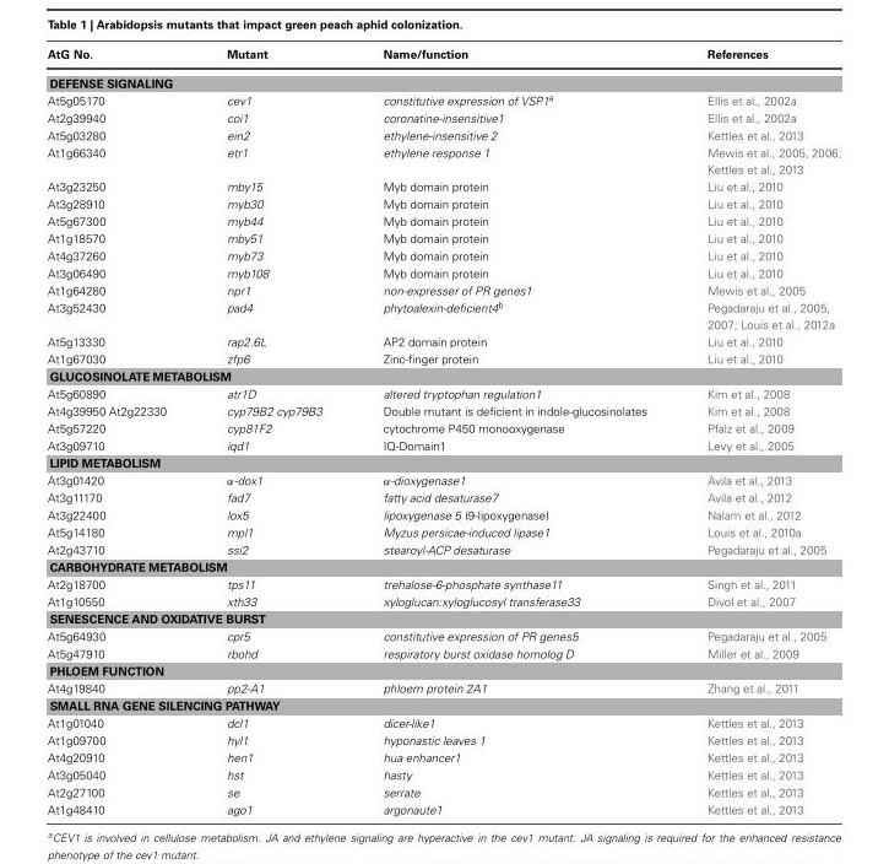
<table><thead><tr><td>AtG No.</td><td>Mutant</td><td>Name/function</td><td>References</td></tr></thead><tbody><tr><td colspan="4">DEFENSE SIGNALING</td></tr><tr><td>At5g05170</td><td>cev1</td><td>constitutive expression of VSP1<sup>a</sup></td><td>Ellis et al., 2002a</td></tr><tr><td>At2g39940</td><td>coi1</td><td>coronatine-insensitive1</td><td>Ellis et al., 2002a</td></tr><tr><td>At5g03280</td><td>ein2</td><td>ethylene-insensitive 2</td><td>Kettles et al., 2013</td></tr><tr><td>At1g66340</td><td>etr1</td><td>ethylene response 1</td><td>Mewis et al., 2005, 2006; Kettles et al., 2013</td></tr><tr><td>At3g23250</td><td>mby15</td><td>Myb domain protein</td><td>Liu et al., 2010</td></tr><tr><td>At3g28910</td><td>myb30</td><td>Myb domain protein</td><td>Liu et al., 2010</td></tr><tr><td>At5g67300</td><td>myb44</td><td>Myb domain protein</td><td>Liu et al., 2010</td></tr><tr><td>At1g18570</td><td>mby51</td><td>Myb domain protein</td><td>Liu et al., 2010</td></tr><tr><td>At4g37260</td><td>myb73</td><td>Myb domain protein</td><td>Liu et al., 2010</td></tr><tr><td>At3g06490</td><td>myb108</td><td>Myb domain protein</td><td>Liu et al., 2010</td></tr><tr><td>At1g64280</td><td>npr1</td><td>non-expresser of PR genes1</td><td>Mewis et al., 2005</td></tr><tr><td>At3g52430</td><td>pad4</td><td>phytoalexin-deficient4<sup>b</sup></td><td>Pegadaraju et al., 2005, 2007; Louis et al., 2012a</td></tr><tr><td>At5g13330</td><td>rap2.6L</td><td>AP2 domain protein</td><td>Liu et al., 2010</td></tr><tr><td>At1g67030</td><td>zfp6</td><td>Zinc-finger protein</td><td>Liu et al., 2010</td></tr><tr><td colspan="4">GLUCOSINOLATE METABOLISM</td></tr><tr><td>At5g60890</td><td>atr1D</td><td>altered tryptophan regulation1</td><td>Kim et al., 2008</td></tr><tr><td>At4g39950 At2g22330</td><td>cyp79B2 cyp79B3</td><td>Double mutant is deficient in indole-glucosinolates</td><td>Kim et al., 2008</td></tr><tr><td>At5g57220</td><td>cyp81F2</td><td>cytochrome P450 monooxygenase</td><td>Pfalz et al., 2009</td></tr><tr><td>At3g09710</td><td>iqd1</td><td>IQ-Domain1</td><td>Levy et al., 2005</td></tr><tr><td colspan="4">LIPID METABOLISM</td></tr><tr><td>At3g01420</td><td>α-dox1</td><td>α-dioxygenase1</td><td>Avila et al., 2013</td></tr><tr><td>At3g11170</td><td>fad7</td><td>fatty acid desaturase7</td><td>Avila et al., 2012</td></tr><tr><td>At3g22400</td><td>lox5</td><td>lipoxygenase 5 (9-lipoxygenase)</td><td>Nalam et al., 2012</td></tr><tr><td>At5g14180</td><td>mpl1</td><td>Myzus persicae-induced lipase1</td><td>Louis et al., 2010a</td></tr><tr><td>At2g43710</td><td>ssi2</td><td>stearoyl-ACP desaturase</td><td>Pegadaraju et al., 2005</td></tr><tr><td colspan="4">CARBOHYDRATE METABOLISM</td></tr><tr><td>At2g18700</td><td>tps11</td><td>trehalose-6-phosphate synthase11</td><td>Singh et al., 2011</td></tr><tr><td>At1g10550</td><td>xth33</td><td>xyloglucan:xyloglucosyl transferase33</td><td>Divol et al., 2007</td></tr><tr><td colspan="4">SENESCENCE AND OXIDATIVE BURST</td></tr><tr><td>At5g64930</td><td>cpr5</td><td>constitutive expression of PR genes5</td><td>Pegadaraju et al., 2005</td></tr><tr><td>At5g47910</td><td>rbohd</td><td>respiratory burst oxidase homolog D</td><td>Miller et al., 2009</td></tr><tr><td colspan="4">PHLOEM FUNCTION</td></tr><tr><td>At4g19840</td><td>pp2-A1</td><td>phloem protein 2A1</td><td>Zhang et al., 2011</td></tr><tr><td colspan="4">SMALL RNA GENE SILENCING PATHWAY</td></tr><tr><td>At1g01040</td><td>dcl1</td><td>dicer-like1</td><td>Kettles et al., 2013</td></tr><tr><td>At1g09700</td><td>hyl1</td><td>hyponastic leaves 1</td><td>Kettles et al., 2013</td></tr><tr><td>At4g20910</td><td>hen1</td><td>hua enhancer1</td><td>Kettles et al., 2013</td></tr><tr><td>At3g05040</td><td>hst</td><td>hasty</td><td>Kettles et al., 2013</td></tr><tr><td>At2g27100</td><td>se</td><td>serrate</td><td>Kettles et al., 2013</td></tr><tr><td>At1g48410</td><td>ago1</td><td>argonaute1</td><td>Kettles et al., 2013</td></tr></tbody></table>